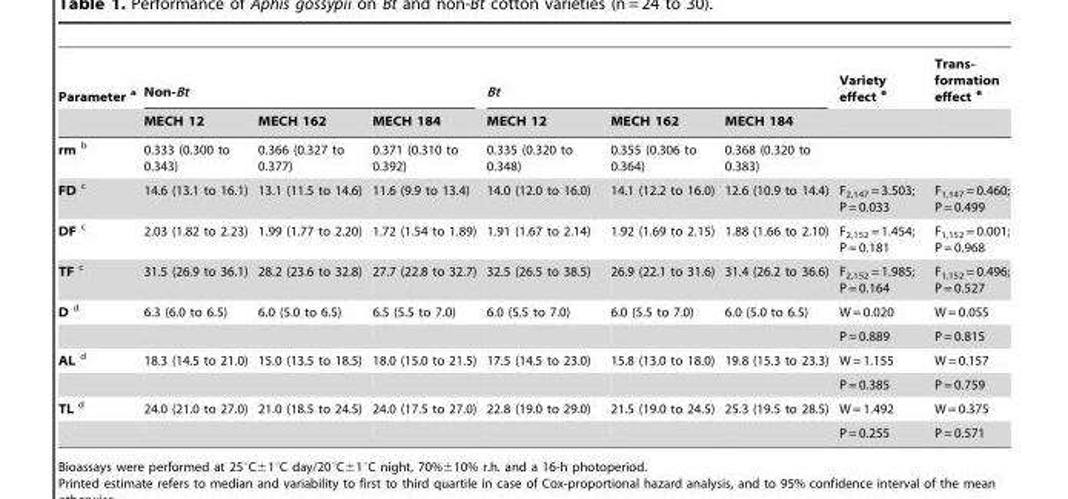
<table><thead><tr><td rowspan="2">Parameter a</td><td colspan="3">Non-Bt</td><td colspan="3">Bt</td><td rowspan="2">Variety effect e</td><td rowspan="2">Trans- formation effect e</td></tr><tr><td>MECH 12</td><td>MECH 162</td><td>MECH 184</td><td>MECH 12</td><td>MECH 162</td><td>MECH 184</td></tr></thead><tbody><tr><td>rm b</td><td>0.333 (0.300 to 0.343)</td><td>0.366 (0.327 to 0.377)</td><td>0.371 (0.310 to 0.392)</td><td>0.335 (0.320 to 0.348)</td><td>0.355 (0.306 to 0.364)</td><td>0.368 (0.320 to 0.383)</td><td></td><td></td></tr><tr><td>FD c</td><td>14.6 (13.1 to 16.1)</td><td>13.1 (11.5 to 14.6)</td><td>11.6 (9.9 to 13.4)</td><td>14.0 (12.0 to 16.0)</td><td>14.1 (12.2 to 16.0)</td><td>12.6 (10.9 to 14.4)</td><td>F<sub>2,147</sub> = 3.503; P = 0.033</td><td>F<sub>1,147</sub> = 0.460; P = 0.499</td></tr><tr><td>DF c</td><td>2.03 (1.82 to 2.23)</td><td>1.99 (1.77 to 2.20)</td><td>1.72 (1.54 to 1.89)</td><td>1.91 (1.67 to 2.14)</td><td>1.92 (1.69 to 2.15)</td><td>1.88 (1.66 to 2.10)</td><td>F<sub>2,152</sub> = 1.454; P = 0.181</td><td>F<sub>1,152</sub> = 0.001; P = 0.968</td></tr><tr><td>TF c</td><td>31.5 (26.9 to 36.1)</td><td>28.2 (23.6 to 32.8)</td><td>27.7 (22.8 to 32.7)</td><td>32.5 (26.5 to 38.5)</td><td>26.9 (22.1 to 31.6)</td><td>31.4 (26.2 to 36.6)</td><td>F<sub>2,152</sub> = 1.985; P = 0.164</td><td>F<sub>1,152</sub> = 0.496; P = 0.527</td></tr><tr><td rowspan="2">D d</td><td>6.3 (6.0 to 6.5)</td><td>6.0 (5.0 to 6.5)</td><td>6.5 (5.5 to 7.0)</td><td>6.0 (5.5 to 7.0)</td><td>6.0 (5.5 to 7.0)</td><td>6.0 (5.0 to 6.5)</td><td>W = 0.020</td><td>W = 0.055</td></tr><tr><td></td><td></td><td></td><td></td><td></td><td></td><td>P = 0.889</td><td>P = 0.815</td></tr><tr><td rowspan="2">AL d</td><td>18.3 (14.5 to 21.0)</td><td>15.0 (13.5 to 18.5)</td><td>18.0 (15.0 to 21.5)</td><td>17.5 (14.5 to 23.0)</td><td>15.8 (13.0 to 18.0)</td><td>19.8 (15.3 to 23.3)</td><td>W = 1.155</td><td>W = 0.157</td></tr><tr><td></td><td></td><td></td><td></td><td></td><td></td><td>P = 0.385</td><td>P = 0.759</td></tr><tr><td rowspan="2">TL d</td><td>24.0 (21.0 to 27.0)</td><td>21.0 (18.5 to 24.5)</td><td>24.0 (17.5 to 27.0)</td><td>22.8 (19.0 to 29.0)</td><td>21.5 (19.0 to 24.5)</td><td>25.3 (19.5 to 28.5)</td><td>W = 1.492</td><td>W = 0.375</td></tr><tr><td></td><td></td><td></td><td></td><td></td><td></td><td>P = 0.255</td><td>P = 0.571</td></tr></tbody></table>